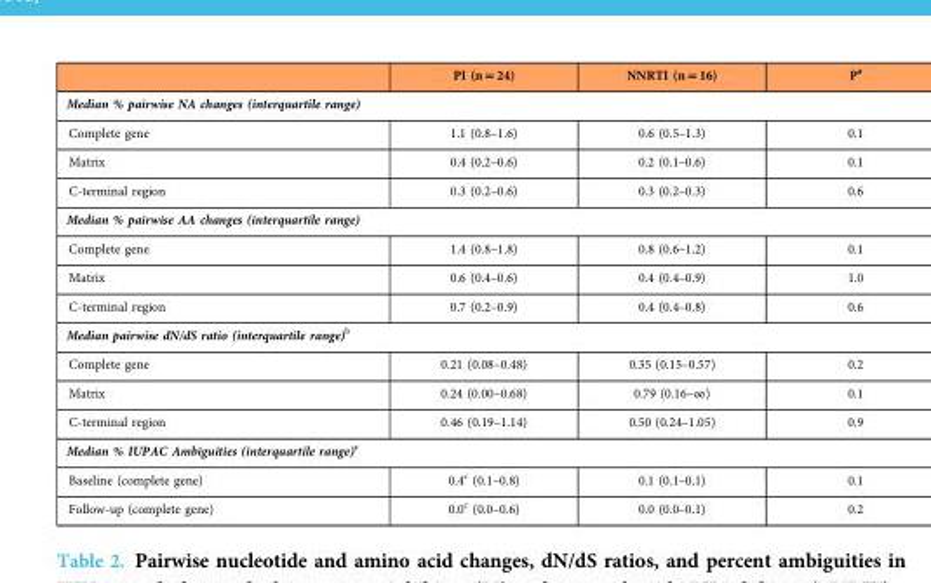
<table><thead><tr><td></td><td>PI (n = 24)</td><td>NNRTI (n = 16)</td><td>P<sup>a</sup></td></tr></thead><tbody><tr><td colspan="4">Median % pairwise NA changes (interquartile range)</td></tr><tr><td>Complete gene</td><td>1.1 (0.8–1.6)</td><td>0.6 (0.5–1.3)</td><td>0.1</td></tr><tr><td>Matrix</td><td>0.4 (0.2–0.6)</td><td>0.2 (0.1–0.6)</td><td>0.1</td></tr><tr><td>C-terminal region</td><td>0.3 (0.2–0.6)</td><td>0.3 (0.2–0.3)</td><td>0.6</td></tr><tr><td colspan="4">Median % pairwise AA changes (interquartile range)</td></tr><tr><td>Complete gene</td><td>1.4 (0.8–1.8)</td><td>0.8 (0.6–1.2)</td><td>0.1</td></tr><tr><td>Matrix</td><td>0.6 (0.4–0.6)</td><td>0.4 (0.4–0.9)</td><td>1.0</td></tr><tr><td>C-terminal region</td><td>0.7 (0.2–0.9)</td><td>0.4 (0.4–0.8)</td><td>0.6</td></tr><tr><td colspan="4">Median pairwise dN/dS ratio (interquartile range)<sup>b</sup></td></tr><tr><td>Complete gene</td><td>0.21 (0.08–0.48)</td><td>0.35 (0.15–0.57)</td><td>0.2</td></tr><tr><td>Matrix</td><td>0.24 (0.00–0.68)</td><td>0.79 (0.16–∞)</td><td>0.1</td></tr><tr><td>C-terminal region</td><td>0.46 (0.19–1.14)</td><td>0.50 (0.24–1.05)</td><td>0.9</td></tr><tr><td colspan="4">Median % IUPAC Ambiguities (interquartile range)<sup>c</sup></td></tr><tr><td>Baseline (complete gene)</td><td>0.4<sup>c</sup> (0.1–0.8)</td><td>0.1 (0.1–0.1)</td><td>0.1</td></tr><tr><td>Follow-up (complete gene)</td><td>0.0<sup>c</sup> (0.0–0.6)</td><td>0.0 (0.0–0.1)</td><td>0.2</td></tr></tbody></table>